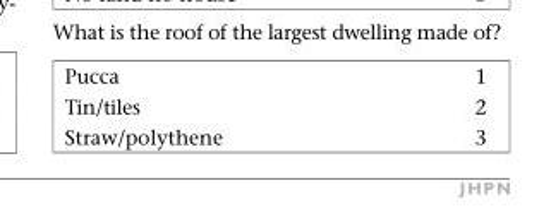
<table><tbody><tr><td>Pucca</td><td>1</td></tr><tr><td>Tin/tiles</td><td>2</td></tr><tr><td>Straw/polythene</td><td>3</td></tr></tbody></table>